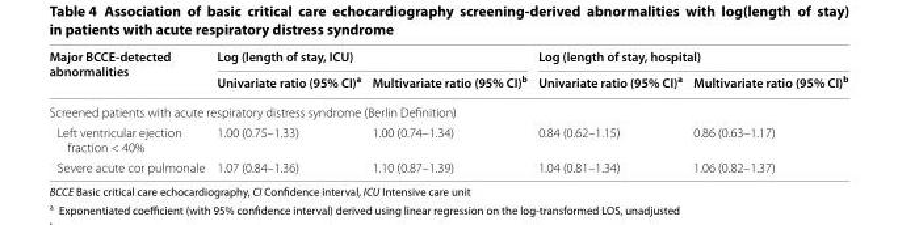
<table><thead><tr><td rowspan="2">Major BCCE-detected abnormalities</td><td colspan="2">Log (length of stay, ICU)</td><td colspan="2">Log (length of stay, hospital)</td></tr><tr><td>Univariate ratio (95% CI)<sup>a</sup></td><td>Multivariate ratio (95% CI)<sup>b</sup></td><td>Univariate ratio (95% CI)<sup>a</sup></td><td>Multivariate ratio (95% CI)<sup>b</sup></td></tr></thead><tbody><tr><td colspan="5">Screened patients with acute respiratory distress syndrome (Berlin Definition)</td></tr><tr><td>Left ventricular ejection fraction &lt; 40%</td><td>1.00 (0.75–1.33)</td><td>1.00 (0.74–1.34)</td><td>0.84 (0.62–1.15)</td><td>0.86 (0.63–1.17)</td></tr><tr><td>Severe acute cor pulmonale</td><td>1.07 (0.84–1.36)</td><td>1.10 (0.87–1.39)</td><td>1.04 (0.81–1.34)</td><td>1.06 (0.82–1.37)</td></tr></tbody></table>